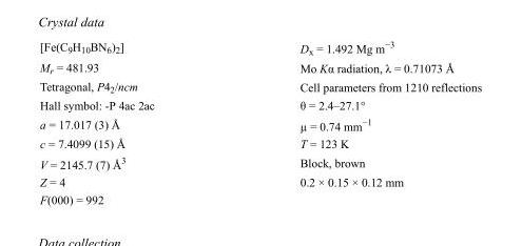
<table><tbody><tr><td>[Fe(C<sub>9</sub>H<sub>10</sub>BN<sub>6</sub>)<sub>2</sub>]</td><td>D<sub>x</sub> = 1.492 Mg m<sup>−3</sup></td></tr><tr><td>M<sub>r</sub> = 481.93</td><td>Mo Kα radiation, λ = 0.71073 Å</td></tr><tr><td>Tetragonal, P4<sub>2</sub>/ncm</td><td>Cell parameters from 1210 reflections</td></tr><tr><td>Hall symbol: -P 4ac 2ac</td><td>θ = 2.4–27.1°</td></tr><tr><td>a = 17.017 (3) Å</td><td>µ = 0.74 mm<sup>−1</sup></td></tr><tr><td>c = 7.4099 (15) Å</td><td>T = 123 K</td></tr><tr><td>V = 2145.7 (7) Å<sup>3</sup></td><td>Block, brown</td></tr><tr><td>Z = 4</td><td>0.2 × 0.15 × 0.12 mm</td></tr><tr><td>F(000) = 992</td><td></td></tr></tbody></table>